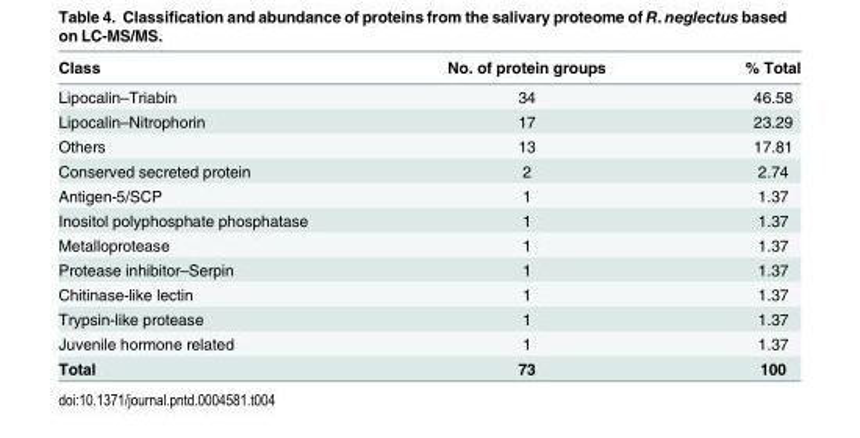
<table><thead><tr><td>Class</td><td>No. of protein groups</td><td>% Total</td></tr></thead><tbody><tr><td>Lipocalin–Triabin</td><td>34</td><td>46.58</td></tr><tr><td>Lipocalin–Nitrophorin</td><td>17</td><td>23.29</td></tr><tr><td>Others</td><td>13</td><td>17.81</td></tr><tr><td>Conserved secreted protein</td><td>2</td><td>2.74</td></tr><tr><td>Antigen-5/SCP</td><td>1</td><td>1.37</td></tr><tr><td>Inositol polyphosphate phosphatase</td><td>1</td><td>1.37</td></tr><tr><td>Metalloprotease</td><td>1</td><td>1.37</td></tr><tr><td>Protease inhibitor–Serpin</td><td>1</td><td>1.37</td></tr><tr><td>Chitinase-like lectin</td><td>1</td><td>1.37</td></tr><tr><td>Trypsin-like protease</td><td>1</td><td>1.37</td></tr><tr><td>Juvenile hormone related</td><td>1</td><td>1.37</td></tr><tr><td>Total</td><td>73</td><td>100</td></tr></tbody></table>